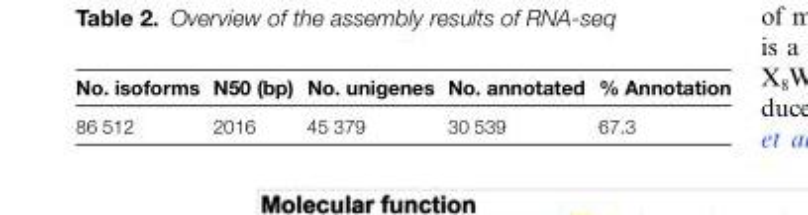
<table><thead><tr><td>No. isoforms</td><td>N50 (bp)</td><td>No. unigenes</td><td>No. annotated</td><td>% Annotation</td></tr></thead><tbody><tr><td>86 512</td><td>2016</td><td>45 379</td><td>30 539</td><td>67.3</td></tr></tbody></table>